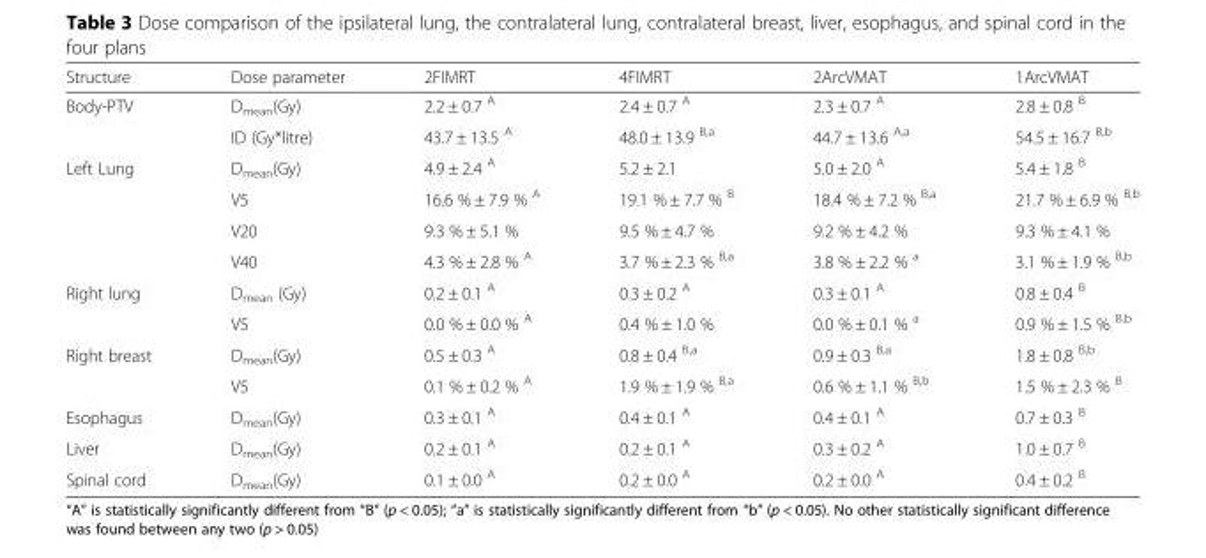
<table><thead><tr><td>Structure</td><td>Dose parameter</td><td>2FIMRT</td><td>4FIMRT</td><td>2ArcVMAT</td><td>1ArcVMAT</td></tr></thead><tbody><tr><td rowspan="2">Body-PTV</td><td>D<sub>mean</sub>(Gy)</td><td>2.2 ± 0.7 <sup>A</sup></td><td>2.4 ± 0.7 <sup>A</sup></td><td>2.3 ± 0.7 <sup>A</sup></td><td>2.8 ± 0.8 <sup>B</sup></td></tr><tr><td>ID (Gy*litre)</td><td>43.7 ± 13.5 <sup>A</sup></td><td>48.0 ± 13.9 <sup>B,a</sup></td><td>44.7 ± 13.6 <sup>A,a</sup></td><td>54.5 ± 16.7 <sup>B,b</sup></td></tr><tr><td rowspan="4">Left Lung</td><td>D<sub>mean</sub>(Gy)</td><td>4.9 ± 2.4 <sup>A</sup></td><td>5.2 ± 2.1</td><td>5.0 ± 2.0 <sup>A</sup></td><td>5.4 ± 1.8 <sup>B</sup></td></tr><tr><td>V5</td><td>16.6 % ± 7.9 % <sup>A</sup></td><td>19.1 % ± 7.7 % <sup>B</sup></td><td>18.4 % ± 7.2 % <sup>B,a</sup></td><td>21.7 % ± 6.9 % <sup>B,b</sup></td></tr><tr><td>V20</td><td>9.3 % ± 5.1 %</td><td>9.5 % ± 4.7 %</td><td>9.2 % ± 4.2 %</td><td>9.3 % ± 4.1 %</td></tr><tr><td>V40</td><td>4.3 % ± 2.8 % <sup>A</sup></td><td>3.7 % ± 2.3 % <sup>B,a</sup></td><td>3.8 % ± 2.2 % <sup>a</sup></td><td>3.1 % ± 1.9 % <sup>B,b</sup></td></tr><tr><td rowspan="2">Right lung</td><td>D<sub>mean</sub> (Gy)</td><td>0.2 ± 0.1 <sup>A</sup></td><td>0.3 ± 0.2 <sup>A</sup></td><td>0.3 ± 0.1 <sup>A</sup></td><td>0.8 ± 0.4 <sup>B</sup></td></tr><tr><td>V5</td><td>0.0 % ± 0.0 % <sup>A</sup></td><td>0.4 % ± 1.0 %</td><td>0.0 % ± 0.1 % <sup>a</sup></td><td>0.9 % ± 1.5 % <sup>B,b</sup></td></tr><tr><td rowspan="2">Right breast</td><td>D<sub>mean</sub>(Gy)</td><td>0.5 ± 0.3 <sup>A</sup></td><td>0.8 ± 0.4 <sup>B,a</sup></td><td>0.9 ± 0.3 <sup>B,a</sup></td><td>1.8 ± 0.8 <sup>B,b</sup></td></tr><tr><td>V5</td><td>0.1 % ± 0.2 % <sup>A</sup></td><td>1.9 % ± 1.9 % <sup>B,a</sup></td><td>0.6 % ± 1.1 % <sup>B,b</sup></td><td>1.5 % ± 2.3 % <sup>B</sup></td></tr><tr><td>Esophagus</td><td>D<sub>mean</sub>(Gy)</td><td>0.3 ± 0.1 <sup>A</sup></td><td>0.4 ± 0.1 <sup>A</sup></td><td>0.4 ± 0.1 <sup>A</sup></td><td>0.7 ± 0.3 <sup>B</sup></td></tr><tr><td>Liver</td><td>D<sub>mean</sub>(Gy)</td><td>0.2 ± 0.1 <sup>A</sup></td><td>0.2 ± 0.1 <sup>A</sup></td><td>0.3 ± 0.2 <sup>A</sup></td><td>1.0 ± 0.7 <sup>B</sup></td></tr><tr><td>Spinal cord</td><td>D<sub>mean</sub>(Gy)</td><td>0.1 ± 0.0 <sup>A</sup></td><td>0.2 ± 0.0 <sup>A</sup></td><td>0.2 ± 0.0 <sup>A</sup></td><td>0.4 ± 0.2 <sup>B</sup></td></tr></tbody></table>